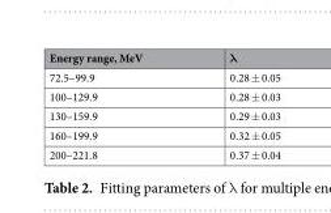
<table><thead><tr><td>Energy range, MeV</td><td>λ</td></tr></thead><tbody><tr><td>72.5–99.9</td><td>0.28 ± 0.05</td></tr><tr><td>100–129.9</td><td>0.28 ± 0.03</td></tr><tr><td>130–159.9</td><td>0.29 ± 0.03</td></tr><tr><td>160–199.9</td><td>0.32 ± 0.05</td></tr><tr><td>200–221.8</td><td>0.37 ± 0.04</td></tr></tbody></table>